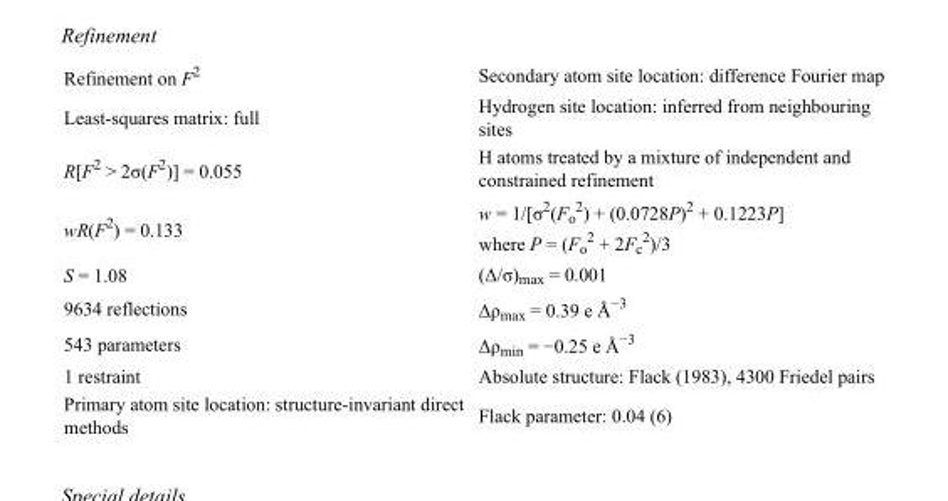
<table><tbody><tr><td>Refinement on F<sup>2</sup></td><td>Secondary atom site location: difference Fourier map</td></tr><tr><td>Least-squares matrix: full</td><td>Hydrogen site location: inferred from neighbouring sites</td></tr><tr><td>R[F<sup>2</sup> &gt; 2σ(F<sup>2</sup>)] = 0.055</td><td>H atoms treated by a mixture of independent and constrained refinement</td></tr><tr><td>wR(F<sup>2</sup>) = 0.133</td><td>w = 1/[σ<sup>2</sup>(F<sub>o</sub> <sup>2</sup>) + (0.0728P)<sup>2</sup> + 0.1223P] where P = (F<sub>o</sub> <sup>2</sup> + 2F<sub>c</sub> <sup>2</sup>)/3</td></tr><tr><td>S = 1.08</td><td>(Δ/σ)<sub>max</sub> = 0.001</td></tr><tr><td>9634 reflections</td><td>Δρ<sub>max</sub> = 0.39 e Å<sup>−3</sup></td></tr><tr><td>543 parameters</td><td>Δρ<sub>min</sub> = −0.25 e Å<sup>−3</sup></td></tr><tr><td>1 restraint</td><td>Absolute structure: Flack (1983), 4300 Friedel pairs</td></tr><tr><td>Primary atom site location: structure-invariant direct methods</td><td>Flack parameter: 0.04 (6)</td></tr></tbody></table>